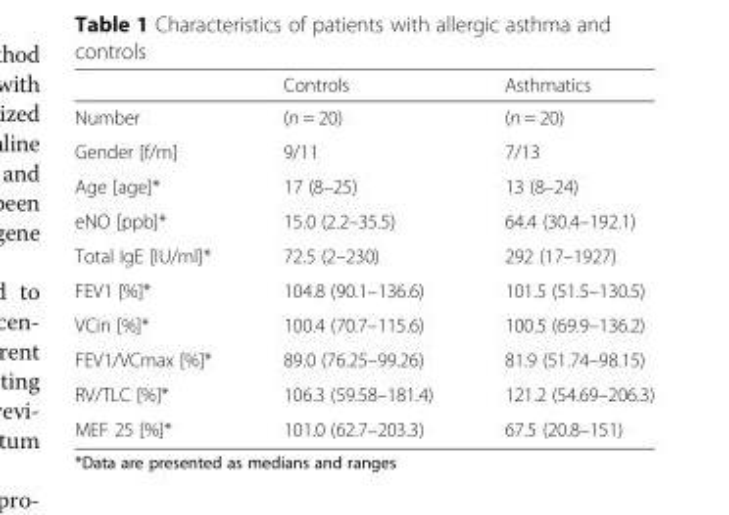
<table><thead><tr><td></td><td>Controls</td><td>Asthmatics</td></tr></thead><tbody><tr><td>Number</td><td>(n = 20)</td><td>(n = 20)</td></tr><tr><td>Gender [f/m]</td><td>9/11</td><td>7/13</td></tr><tr><td>Age [age]*</td><td>17 (8–25)</td><td>13 (8–24)</td></tr><tr><td>eNO [ppb]*</td><td>15.0 (2.2–35.5)</td><td>64.4 (30.4–192.1)</td></tr><tr><td>Total IgE [IU/ml]*</td><td>72.5 (2–230)</td><td>292 (17–1927)</td></tr><tr><td>FEV1 [%]*</td><td>104.8 (90.1–136.6)</td><td>101.5 (51.5–130.5)</td></tr><tr><td>VCin [%]*</td><td>100.4 (70.7–115.6)</td><td>100.5 (69.9–136.2)</td></tr><tr><td>FEV1/VCmax [%]*</td><td>89.0 (76.25–99.26)</td><td>81.9 (51.74–98.15)</td></tr><tr><td>RV/TLC [%]*</td><td>106.3 (59.58–181.4)</td><td>121.2 (54.69–206.3)</td></tr><tr><td>MEF 25 [%]*</td><td>101.0 (62.7–203.3)</td><td>67.5 (20.8–151)</td></tr></tbody></table>